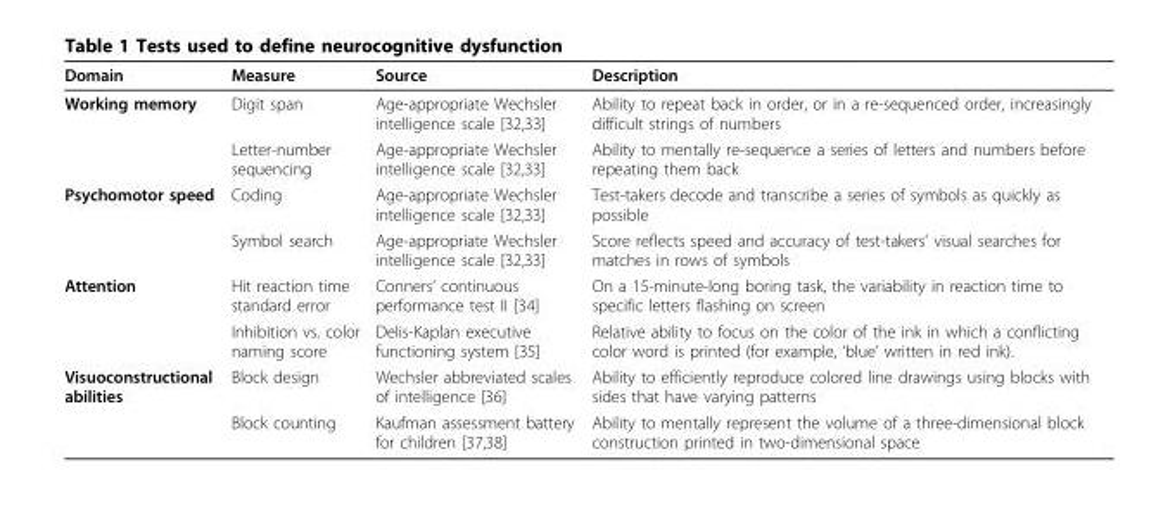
<table><thead><tr><td>Domain</td><td>Measure</td><td>Source</td><td>Description</td></tr></thead><tbody><tr><td rowspan="2">Working memory</td><td>Digit span</td><td>Age-appropriate Wechsler intelligence scale [32,33]</td><td>Ability to repeat back in order, or in a re-sequenced order, increasingly difficult strings of numbers</td></tr><tr><td>Letter-number sequencing</td><td>Age-appropriate Wechsler intelligence scale [32,33]</td><td>Ability to mentally re-sequence a series of letters and numbers before repeating them back</td></tr><tr><td rowspan="2">Psychomotor speed</td><td>Coding</td><td>Age-appropriate Wechsler intelligence scale [32,33]</td><td>Test-takers decode and transcribe a series of symbols as quickly as possible</td></tr><tr><td>Symbol search</td><td>Age-appropriate Wechsler intelligence scale [32,33]</td><td>Score reflects speed and accuracy of test-takers’ visual searches for matches in rows of symbols</td></tr><tr><td rowspan="2">Attention</td><td>Hit reaction time standard error</td><td>Conners’ continuous performance test II [34]</td><td>On a 15-minute-long boring task, the variability in reaction time to specific letters flashing on screen</td></tr><tr><td>Inhibition vs. color naming score</td><td>Delis-Kaplan executive functioning system [35]</td><td>Relative ability to focus on the color of the ink in which a conflicting color word is printed (for example, ‘blue’ written in red ink).</td></tr><tr><td rowspan="2">Visuoconstructional abilities</td><td>Block design</td><td>Wechsler abbreviated scales of intelligence [36]</td><td>Ability to efficiently reproduce colored line drawings using blocks with sides that have varying patterns</td></tr><tr><td>Block counting</td><td>Kaufman assessment battery for children [37,38]</td><td>Ability to mentally represent the volume of a three-dimensional block construction printed in two-dimensional space</td></tr></tbody></table>